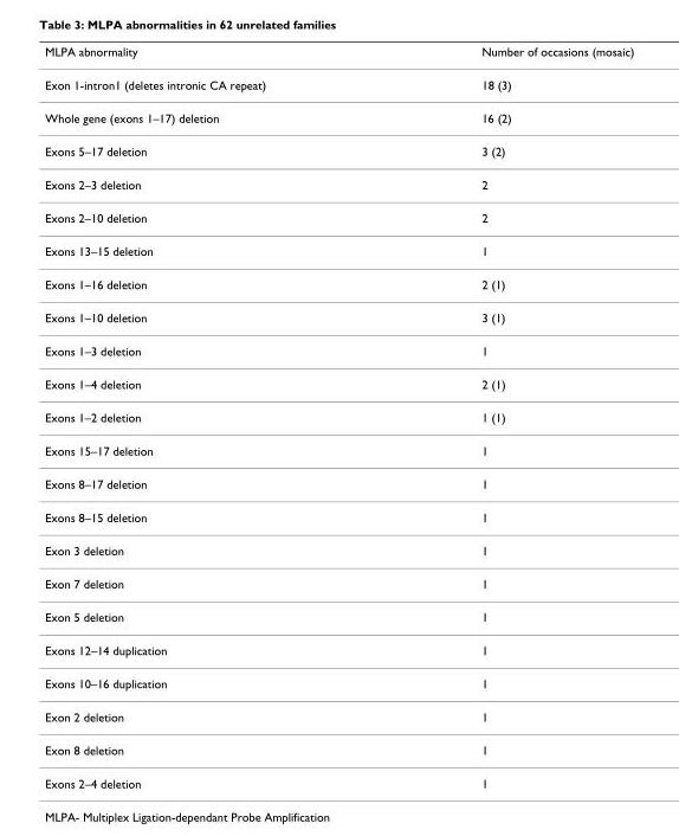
<table><thead><tr><td>MLPA abnormality</td><td>Number of occasions (mosaic)</td></tr></thead><tbody><tr><td>Exon 1-intron1 (deletes intronic CA repeat)</td><td>18 (3)</td></tr><tr><td>Whole gene (exons 1–17) deletion</td><td>16 (2)</td></tr><tr><td>Exons 5–17 deletion</td><td>3 (2)</td></tr><tr><td>Exons 2–3 deletion</td><td>2</td></tr><tr><td>Exons 2–10 deletion</td><td>2</td></tr><tr><td>Exons 13–15 deletion</td><td>1</td></tr><tr><td>Exons 1–16 deletion</td><td>2 (1)</td></tr><tr><td>Exons 1–10 deletion</td><td>3 (1)</td></tr><tr><td>Exons 1–3 deletion</td><td>1</td></tr><tr><td>Exons 1–4 deletion</td><td>2 (1)</td></tr><tr><td>Exons 1–2 deletion</td><td>1 (1)</td></tr><tr><td>Exons 15–17 deletion</td><td>1</td></tr><tr><td>Exons 8–17 deletion</td><td>1</td></tr><tr><td>Exons 8–15 deletion</td><td>1</td></tr><tr><td>Exon 3 deletion</td><td>1</td></tr><tr><td>Exon 7 deletion</td><td>1</td></tr><tr><td>Exon 5 deletion</td><td>1</td></tr><tr><td>Exons 12–14 duplication</td><td>1</td></tr><tr><td>Exons 10–16 duplication</td><td>1</td></tr><tr><td>Exon 2 deletion</td><td>1</td></tr><tr><td>Exon 8 deletion</td><td>1</td></tr><tr><td>Exons 2–4 deletion</td><td>1</td></tr></tbody></table>